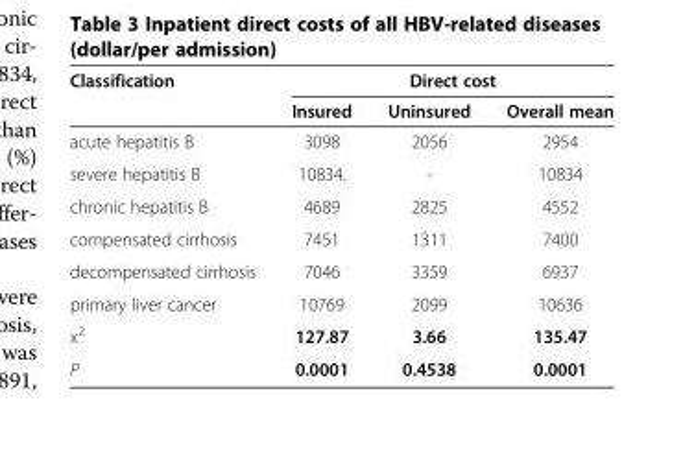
<table><thead><tr><td rowspan="2">Classification</td><td colspan="3">Direct cost</td></tr><tr><td>Insured</td><td>Uninsured</td><td>Overall mean</td></tr></thead><tbody><tr><td>acute hepatitis B</td><td>3098</td><td>2056</td><td>2954</td></tr><tr><td>severe hepatitis B</td><td>10834.</td><td>-</td><td>10834</td></tr><tr><td>chronic hepatitis B</td><td>4689</td><td>2825</td><td>4552</td></tr><tr><td>compensated cirrhosis</td><td>7451</td><td>1311</td><td>7400</td></tr><tr><td>decompensated cirrhosis</td><td>7046</td><td>3359</td><td>6937</td></tr><tr><td>primary liver cancer</td><td>10769</td><td>2099</td><td>10636</td></tr><tr><td>x<sup>2</sup></td><td>127.87</td><td>3.66</td><td>135.47</td></tr><tr><td>P</td><td>0.0001</td><td>0.4538</td><td>0.0001</td></tr></tbody></table>